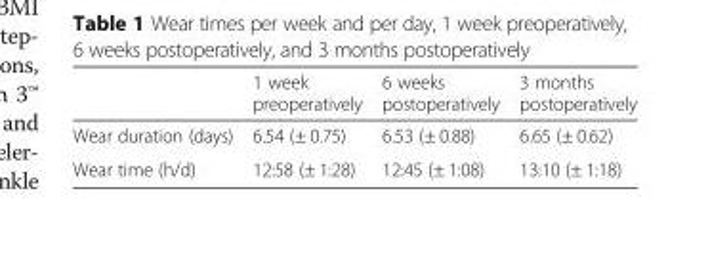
<table><thead><tr><td></td><td>1 week preoperatively</td><td>6 weeks postoperatively</td><td>3 months postoperatively</td></tr></thead><tbody><tr><td>Wear duration (days)</td><td>6.54 (± 0.75)</td><td>6.53 (± 0.88)</td><td>6.65 (± 0.62)</td></tr><tr><td>Wear time (h/d)</td><td>12:58 (± 1:28)</td><td>12:45 (± 1:08)</td><td>13:10 (± 1:18)</td></tr></tbody></table>